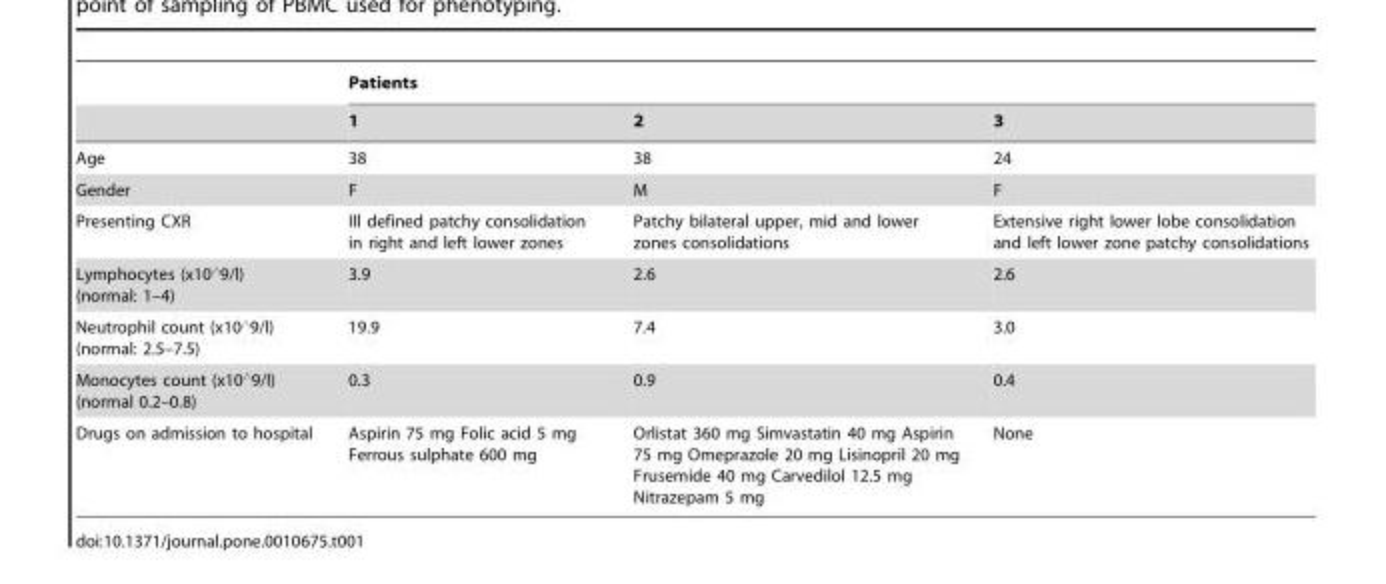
<table><thead><tr><td rowspan="2"></td><td colspan="3">Patients</td></tr><tr><td>1</td><td>2</td><td>3</td></tr></thead><tbody><tr><td>Age</td><td>38</td><td>38</td><td>24</td></tr><tr><td>Gender</td><td>F</td><td>M</td><td>F</td></tr><tr><td>Presenting CXR</td><td>Ill defined patchy consolidation in right and left lower zones</td><td>Patchy bilateral upper, mid and lower zones consolidations</td><td>Extensive right lower lobe consolidation and left lower zone patchy consolidations</td></tr><tr><td>Lymphocytes (x10‘9/l) (normal: 1–4)</td><td>3.9</td><td>2.6</td><td>2.6</td></tr><tr><td>Neutrophil count (x10‘9/l) (normal: 2.5–7.5)</td><td>19.9</td><td>7.4</td><td>3.0</td></tr><tr><td>Monocytes count (x10‘9/l) (normal 0.2–0.8)</td><td>0.3</td><td>0.9</td><td>0.4</td></tr><tr><td>Drugs on admission to hospital</td><td>Aspirin 75 mg Folic acid 5 mg Ferrous sulphate 600 mg</td><td>Orlistat 360 mg Simvastatin 40 mg Aspirin 75 mg Omeprazole 20 mg Lisinopril 20 mg Frusemide 40 mg Carvedilol 12.5 mg Nitrazepam 5 mg</td><td>None</td></tr></tbody></table>